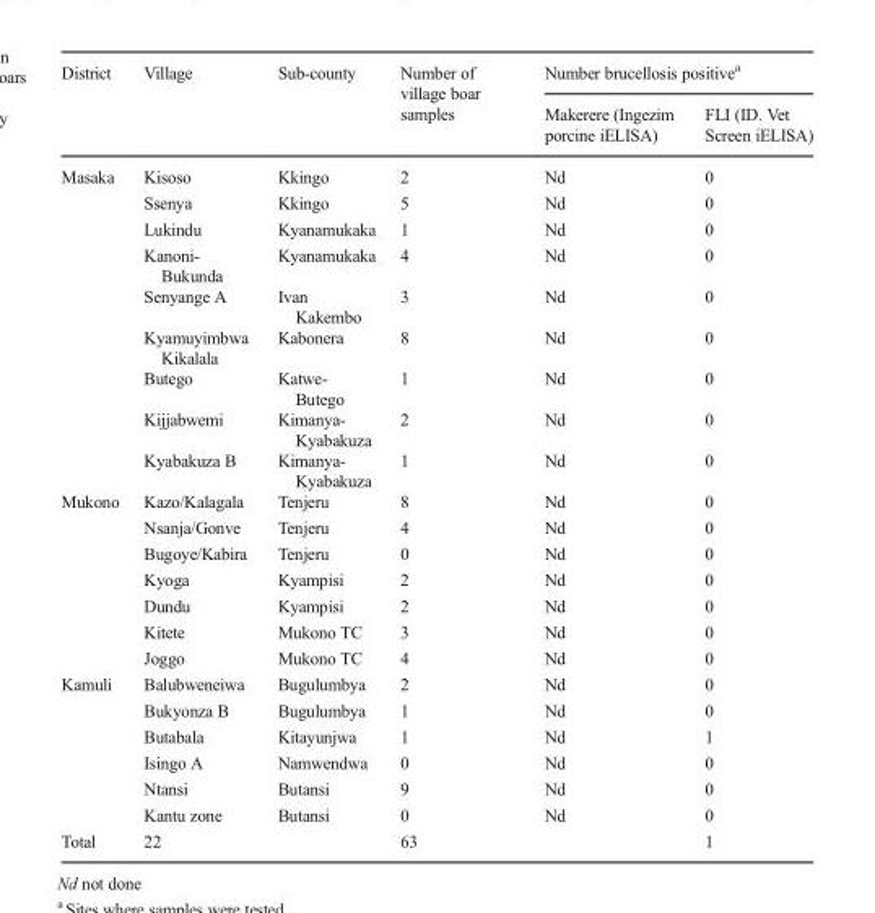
<table><thead><tr><td rowspan="2">District</td><td rowspan="2">Village</td><td rowspan="2">Sub-county</td><td rowspan="2">Number of village boar samples</td><td colspan="2">Number brucellosis positive<sup>a</sup></td></tr><tr><td>Makerere (Ingezim porcine iELISA)</td><td>FLI (ID. Vet Screen iELISA)</td></tr></thead><tbody><tr><td rowspan="9">Masaka</td><td>Kisoso</td><td>Kkingo</td><td>2</td><td>Nd</td><td>0</td></tr><tr><td>Ssenya</td><td>Kkingo</td><td>5</td><td>Nd</td><td>0</td></tr><tr><td>Lukindu</td><td>Kyanamukaka</td><td>1</td><td>Nd</td><td>0</td></tr><tr><td>Kanoni- Bukunda</td><td>Kyanamukaka</td><td>4</td><td>Nd</td><td>0</td></tr><tr><td>Senyange A</td><td>Ivan Kakembo</td><td>3</td><td>Nd</td><td>0</td></tr><tr><td>Kyamuyimbwa Kikalala</td><td>Kabonera</td><td>8</td><td>Nd</td><td>0</td></tr><tr><td>Butego</td><td>Katwe- Butego</td><td>1</td><td>Nd</td><td>0</td></tr><tr><td>Kijjabwemi</td><td>Kimanya- Kyabakuza</td><td>2</td><td>Nd</td><td>0</td></tr><tr><td>Kyabakuza B</td><td>Kimanya- Kyabakuza</td><td>1</td><td>Nd</td><td>0</td></tr><tr><td rowspan="7">Mukono</td><td>Kazo/Kalagala</td><td>Tenjeru</td><td>8</td><td>Nd</td><td>0</td></tr><tr><td>Nsanja/Gonve</td><td>Tenjeru</td><td>4</td><td>Nd</td><td>0</td></tr><tr><td>Bugoye/Kabira</td><td>Tenjeru</td><td>0</td><td>Nd</td><td>0</td></tr><tr><td>Kyoga</td><td>Kyampisi</td><td>2</td><td>Nd</td><td>0</td></tr><tr><td>Dundu</td><td>Kyampisi</td><td>2</td><td>Nd</td><td>0</td></tr><tr><td>Kitete</td><td>Mukono TC</td><td>3</td><td>Nd</td><td>0</td></tr><tr><td>Joggo</td><td>Mukono TC</td><td>4</td><td>Nd</td><td>0</td></tr><tr><td rowspan="6">Kamuli</td><td>Balubweneiwa</td><td>Bugulumbya</td><td>2</td><td>Nd</td><td>0</td></tr><tr><td>Bukyonza B</td><td>Bugulumbya</td><td>1</td><td>Nd</td><td>0</td></tr><tr><td>Butabala</td><td>Kitayunjwa</td><td>1</td><td>Nd</td><td>1</td></tr><tr><td>Isingo A</td><td>Namwendwa</td><td>0</td><td>Nd</td><td>0</td></tr><tr><td>Ntansi</td><td>Butansi</td><td>9</td><td>Nd</td><td>0</td></tr><tr><td>Kantu zone</td><td>Butansi</td><td>0</td><td>Nd</td><td>0</td></tr><tr><td>Total</td><td>22</td><td></td><td>63</td><td></td><td>1</td></tr></tbody></table>